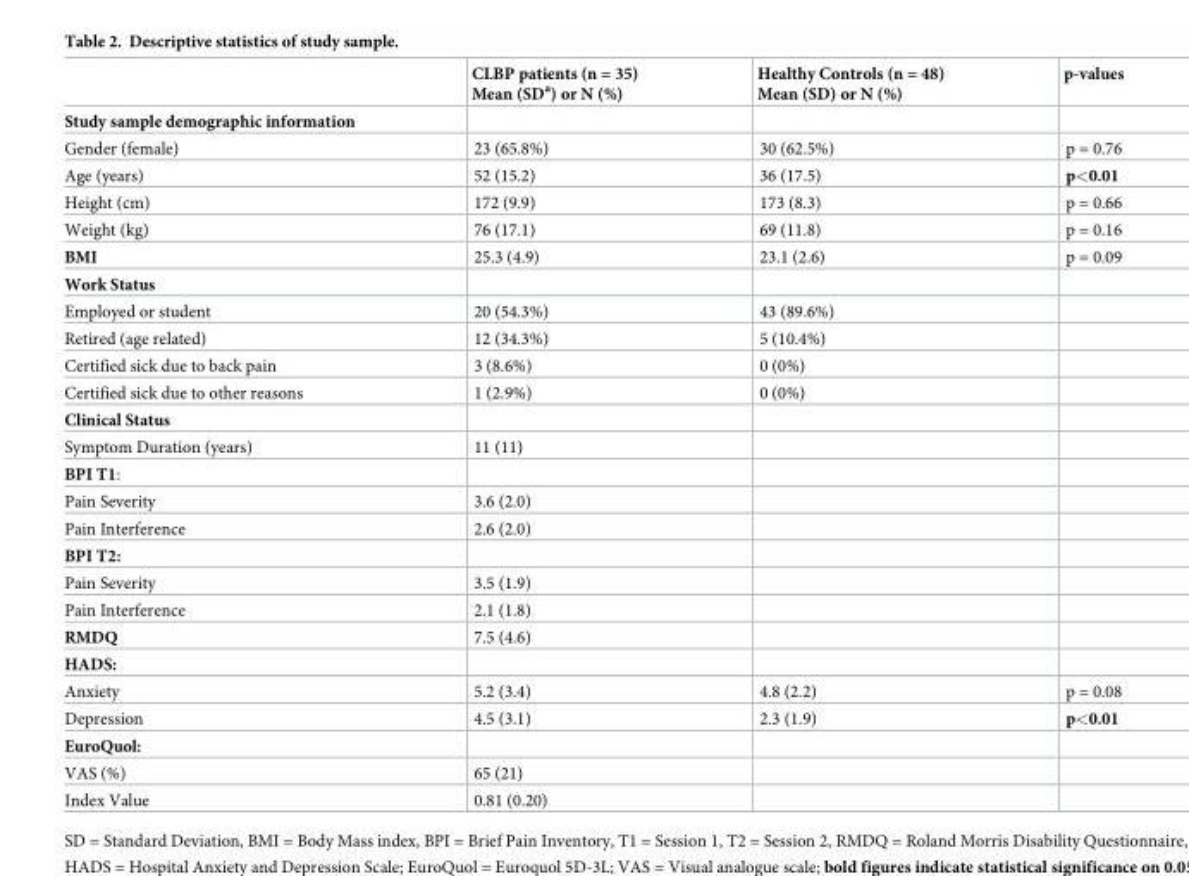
<table><thead><tr><td></td><td>CLBP patients (n = 35) Mean (SD<sup>a</sup>) or N (%)</td><td>Healthy Controls (n = 48) Mean (SD) or N (%)</td><td>p-values</td></tr></thead><tbody><tr><td colspan="4">Study sample demographic information</td></tr><tr><td>Gender (female)</td><td>23 (65.8%)</td><td>30 (62.5%)</td><td>p = 0.76</td></tr><tr><td>Age (years)</td><td>52 (15.2)</td><td>36 (17.5)</td><td>p&lt;0.01</td></tr><tr><td>Height (cm)</td><td>172 (9.9)</td><td>173 (8.3)</td><td>p = 0.66</td></tr><tr><td>Weight (kg)</td><td>76 (17.1)</td><td>69 (11.8)</td><td>p = 0.16</td></tr><tr><td>BMI</td><td>25.3 (4.9)</td><td>23.1 (2.6)</td><td>p = 0.09</td></tr><tr><td colspan="4">Work Status</td></tr><tr><td>Employed or student</td><td>20 (54.3%)</td><td>43 (89.6%)</td><td></td></tr><tr><td>Retired (age related)</td><td>12 (34.3%)</td><td>5 (10.4%)</td><td></td></tr><tr><td>Certified sick due to back pain</td><td>3 (8.6%)</td><td>0 (0%)</td><td></td></tr><tr><td>Certified sick due to other reasons</td><td>1 (2.9%)</td><td>0 (0%)</td><td></td></tr><tr><td colspan="4">Clinical Status</td></tr><tr><td>Symptom Duration (years)</td><td>11 (11)</td><td></td><td></td></tr><tr><td colspan="4">BPI T1:</td></tr><tr><td>Pain Severity</td><td>3.6 (2.0)</td><td></td><td></td></tr><tr><td>Pain Interference</td><td>2.6 (2.0)</td><td></td><td></td></tr><tr><td colspan="4">BPI T2:</td></tr><tr><td>Pain Severity</td><td>3.5 (1.9)</td><td></td><td></td></tr><tr><td>Pain Interference</td><td>2.1 (1.8)</td><td></td><td></td></tr><tr><td>RMDQ</td><td>7.5 (4.6)</td><td></td><td></td></tr><tr><td colspan="4">HADS:</td></tr><tr><td>Anxiety</td><td>5.2 (3.4)</td><td>4.8 (2.2)</td><td>p = 0.08</td></tr><tr><td>Depression</td><td>4.5 (3.1)</td><td>2.3 (1.9)</td><td>p&lt;0.01</td></tr><tr><td colspan="4">EuroQuol:</td></tr><tr><td>VAS (%)</td><td>65 (21)</td><td></td><td></td></tr><tr><td>Index Value</td><td>0.81 (0.20)</td><td></td><td></td></tr></tbody></table>